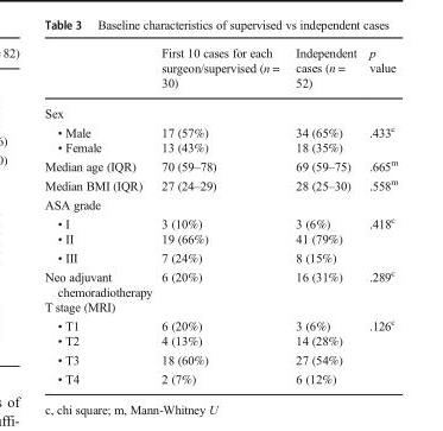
<table><thead><tr><td></td><td>First 10 cases for each surgeon/supervised (n = 30)</td><td>Independent cases (n = 52)</td><td>p value</td></tr></thead><tbody><tr><td colspan="4">Sex</td></tr><tr><td>• Male</td><td>17 (57%)</td><td>34 (65%)</td><td rowspan="2">.433<sup>c</sup></td></tr><tr><td>• Female</td><td>13 (43%)</td><td>18 (35%)</td></tr><tr><td>Median age (IQR)</td><td>70 (59–78)</td><td>69 (59–75)</td><td>.665<sup>m</sup></td></tr><tr><td>Median BMI (IQR)</td><td>27 (24–29)</td><td>28 (25–30)</td><td>.558<sup>m</sup></td></tr><tr><td colspan="4">ASA grade</td></tr><tr><td>• I</td><td>3 (10%)</td><td>3 (6%)</td><td rowspan="3">.418<sup>c</sup></td></tr><tr><td>• II</td><td>19 (66%)</td><td>41 (79%)</td></tr><tr><td>• III</td><td>7 (24%)</td><td>8 (15%)</td></tr><tr><td>Neo adjuvant chemoradiotherapy</td><td>6 (20%)</td><td>16 (31%)</td><td>.289<sup>c</sup></td></tr><tr><td colspan="4">T stage (MRI)</td></tr><tr><td>• T1</td><td>6 (20%)</td><td>3 (6%)</td><td rowspan="4">.126<sup>c</sup></td></tr><tr><td>• T2</td><td>4 (13%)</td><td>14 (28%)</td></tr><tr><td>• T3</td><td>18 (60%)</td><td>27 (54%)</td></tr><tr><td>• T4</td><td>2 (7%)</td><td>6 (12%)</td></tr></tbody></table>